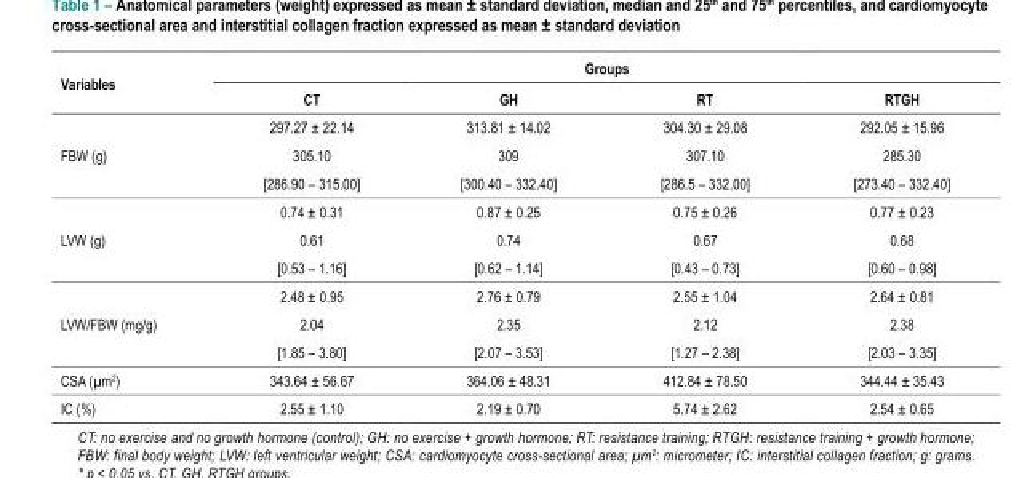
<table><thead><tr><td rowspan="2">Variables</td><td colspan="4">Groups</td></tr><tr><td>CT</td><td>GH</td><td>RT</td><td>RTGH</td></tr></thead><tbody><tr><td rowspan="3">FBW (g)</td><td>297.27 ± 22.14</td><td>313.81 ± 14.02</td><td>304.30 ± 29.08</td><td>292.05 ± 15.96</td></tr><tr><td>305.10</td><td>309</td><td>307.10</td><td>285.30</td></tr><tr><td>[286.90 – 315.00]</td><td>[300.40 – 332.40]</td><td>[286.5 – 332.00]</td><td>[273.40 – 332.40]</td></tr><tr><td rowspan="3">LVW (g)</td><td>0.74 ± 0.31</td><td>0.87 ± 0.25</td><td>0.75 ± 0.26</td><td>0.77 ± 0.23</td></tr><tr><td>0.61</td><td>0.74</td><td>0.67</td><td>0.68</td></tr><tr><td>[0.53 – 1.16]</td><td>[0.62 – 1.14]</td><td>[0.43 – 0.73]</td><td>[0.60 – 0.98]</td></tr><tr><td rowspan="3">LVW/FBW (mg/g)</td><td>2.48 ± 0.95</td><td>2.76 ± 0.79</td><td>2.55 ± 1.04</td><td>2.64 ± 0.81</td></tr><tr><td>2.04</td><td>2.35</td><td>2.12</td><td>2.38</td></tr><tr><td>[1.85 – 3.80]</td><td>[2.07 – 3.53]</td><td>[1.27 – 2.38]</td><td>[2.03 – 3.35]</td></tr><tr><td>CSA (µm<sup>2</sup>)</td><td>343.64 ± 56.67</td><td>364.06 ± 48.31</td><td>412.84 ± 78.50</td><td>344.44 ± 35.43</td></tr><tr><td>IC (%)</td><td>2.55 ± 1.10</td><td>2.19 ± 0.70</td><td>5.74 ± 2.62</td><td>2.54 ± 0.65</td></tr></tbody></table>